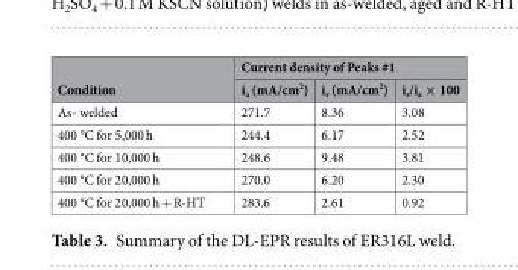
<table><thead><tr><td rowspan="2">Condition</td><td colspan="3">Current density of Peaks #1</td></tr><tr><td>i<sub>a</sub> (mA/cm<sup>2</sup>)</td><td>i<sub>r</sub> (mA/cm<sup>2</sup>)</td><td>i<sub>r</sub>/i<sub>a</sub> × 100</td></tr></thead><tbody><tr><td>As- welded</td><td>271.7</td><td>8.36</td><td>3.08</td></tr><tr><td>400 °C for 5,000 h</td><td>244.4</td><td>6.17</td><td>2.52</td></tr><tr><td>400 °C for 10,000 h</td><td>248.6</td><td>9.48</td><td>3.81</td></tr><tr><td>400 °C for 20,000 h</td><td>270.0</td><td>6.20</td><td>2.30</td></tr><tr><td>400 °C for 20,000 h + R-HT</td><td>283.6</td><td>2.61</td><td>0.92</td></tr></tbody></table>